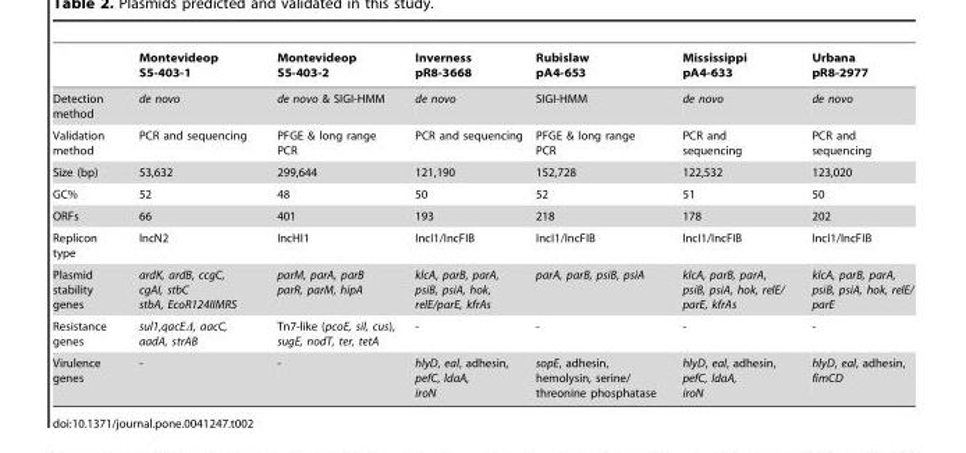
<table><thead><tr><td></td><td>Montevideop S5-403-1</td><td>Montevideop S5-403-2</td><td>Inverness pR8-3668</td><td>Rubislaw pA4-653</td><td>Mississippi pA4-633</td><td>Urbana pR8-2977</td></tr></thead><tbody><tr><td>Detection method</td><td>de novo</td><td>de novo &amp; SIGI-HMM</td><td>de novo</td><td>SIGI-HMM</td><td>de novo</td><td>de novo</td></tr><tr><td>Validation method</td><td>PCR and sequencing</td><td>PFGE &amp; long range PCR</td><td>PCR and sequencing</td><td>PFGE &amp; long range PCR</td><td>PCR and sequencing</td><td>PCR and sequencing</td></tr><tr><td>Size (bp)</td><td>53,632</td><td>299,644</td><td>121,190</td><td>152,728</td><td>122,532</td><td>123,020</td></tr><tr><td>GC%</td><td>52</td><td>48</td><td>50</td><td>52</td><td>51</td><td>50</td></tr><tr><td>ORFs</td><td>66</td><td>401</td><td>193</td><td>218</td><td>178</td><td>202</td></tr><tr><td>Replicon type</td><td>IncN2</td><td>IncHI1</td><td>IncI1/IncFIB</td><td>IncI1/IncFIB</td><td>IncI1/IncFIB</td><td>IncI1/IncFIB</td></tr><tr><td>Plasmid stability genes</td><td>ardK, ardB, ccgC, cgAI, stbC stbA, EcoR124IIMRS</td><td>parM, parA, parB parR, parM, hipA</td><td>klcA, parB, parA, psiB, psiA, hok, relE/parE, kfrAs</td><td>parA, parB, psiB, psiA</td><td>klcA, parB, parA, psiB, psiA, hok, relE/ parE, kfrAs</td><td>klcA, parB, parA, psiB, psiA, hok, relE/ parE</td></tr><tr><td>Resistance genes</td><td>sul1,qacEΔ, aacC, aadA, strAB</td><td>Tn7-like (pcoE, sil, cus), sugE, nodT, ter, tetA</td><td>-</td><td>-</td><td>-</td><td>-</td></tr><tr><td>Virulence genes</td><td>-</td><td>-</td><td>hlyD, eal, adhesin, pefC, ldaA, iroN</td><td>sopE, adhesin, hemolysin, serine/ threonine phosphatase</td><td>hlyD, eal, adhesin, pefC, ldaA, iroN</td><td>hlyD, eal, adhesin, fimCD</td></tr></tbody></table>